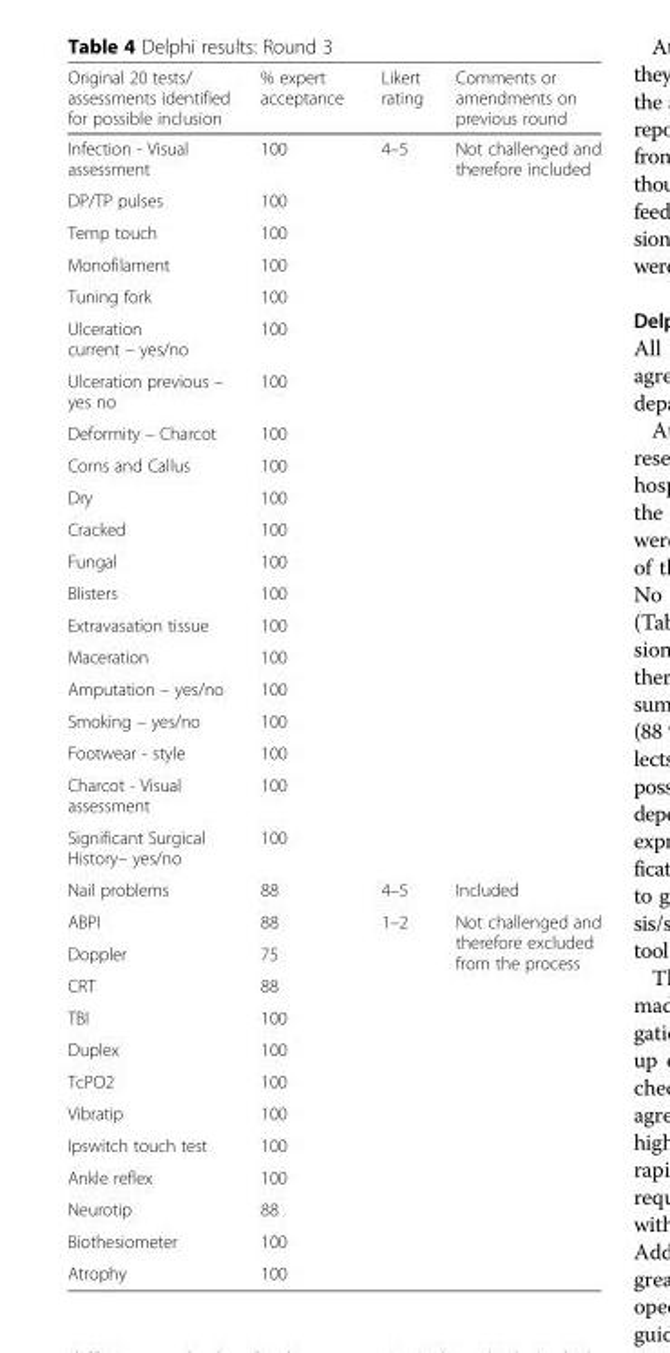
<table><thead><tr><td>Original 20 tests/ assessments identified for possible inclusion</td><td>% expert acceptance</td><td>Likert rating</td><td>Comments or amendments on previous round</td></tr></thead><tbody><tr><td>Infection - Visual assessment</td><td>100</td><td rowspan="20">4–5</td><td rowspan="20">Not challenged and therefore included</td></tr><tr><td>DP/TP pulses</td><td>100</td></tr><tr><td>Temp touch</td><td>100</td></tr><tr><td>Monofilament</td><td>100</td></tr><tr><td>Tuning fork</td><td>100</td></tr><tr><td>Ulceration current – yes/no</td><td>100</td></tr><tr><td>Ulceration previous – yes no</td><td>100</td></tr><tr><td>Deformity – Charcot</td><td>100</td></tr><tr><td>Corns and Callus</td><td>100</td></tr><tr><td>Dry</td><td>100</td></tr><tr><td>Cracked</td><td>100</td></tr><tr><td>Fungal</td><td>100</td></tr><tr><td>Blisters</td><td>100</td></tr><tr><td>Extravasation tissue</td><td>100</td></tr><tr><td>Maceration</td><td>100</td></tr><tr><td>Amputation – yes/no</td><td>100</td></tr><tr><td>Smoking – yes/no</td><td>100</td></tr><tr><td>Footwear - style</td><td>100</td></tr><tr><td>Charcot - Visual assessment</td><td>100</td></tr><tr><td>Significant Surgical History– yes/no</td><td>100</td></tr><tr><td>Nail problems</td><td>88</td><td>4–5</td><td>Included</td></tr><tr><td>ABPI</td><td>88</td><td rowspan="12">1–2</td><td rowspan="12">Not challenged and therefore excluded from the process</td></tr><tr><td>Doppler</td><td>75</td></tr><tr><td>CRT</td><td>88</td></tr><tr><td>TBI</td><td>100</td></tr><tr><td>Duplex</td><td>100</td></tr><tr><td>TcPO2</td><td>100</td></tr><tr><td>Vibratip</td><td>100</td></tr><tr><td>Ipswitch touch test</td><td>100</td></tr><tr><td>Ankle reflex</td><td>100</td></tr><tr><td>Neurotip</td><td>88</td></tr><tr><td>Biothesiometer</td><td>100</td></tr><tr><td>Atrophy</td><td>100</td></tr></tbody></table>